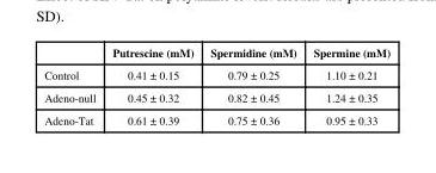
<table><thead><tr><td></td><td>Putrescine (mM)</td><td>Spermidine (mM)</td><td>Spermine (mM)</td></tr></thead><tbody><tr><td>Control</td><td>0.41 ± 0.15</td><td>0.79 ± 0.25</td><td>1.10 ± 0.21</td></tr><tr><td>Adeno-null</td><td>0.45 ± 0.32</td><td>0.82 ± 0.45</td><td>1.24 ± 0.35</td></tr><tr><td>Adeno-Tat</td><td>0.61 ± 0.39</td><td>0.75 ± 0.36</td><td>0.95 ± 0.33</td></tr></tbody></table>